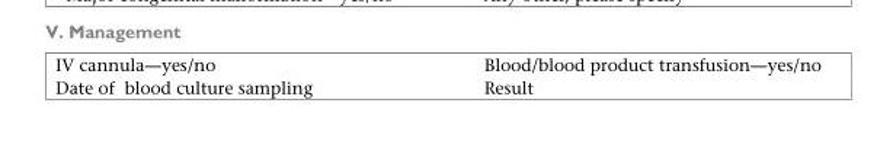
<table><tbody><tr><td>IV cannula―yes/no</td><td>Blood/blood product transfusion―yes/no</td></tr><tr><td>Date of blood culture sampling</td><td>Result</td></tr></tbody></table>